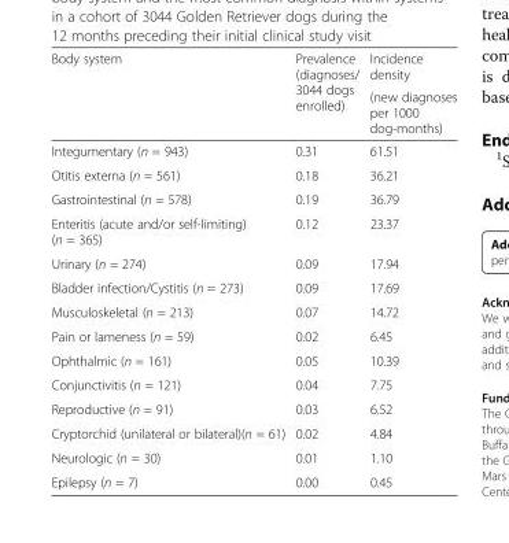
<table><thead><tr><td rowspan="2">Body system</td><td rowspan="2">Prevalence (diagnoses/ 3044 dogs enrolled)</td><td rowspan="2">Incidence density (new diagnoses per 1000 dog-months)</td></tr><tr></tr></thead><tbody><tr><td>Integumentary (n = 943)</td><td>0.31</td><td>61.51</td></tr><tr><td>Otitis externa (n = 561)</td><td>0.18</td><td>36.21</td></tr><tr><td>Gastrointestinal (n = 578)</td><td>0.19</td><td>36.79</td></tr><tr><td>Enteritis (acute and/or self-limiting) (n = 365)</td><td>0.12</td><td>23.37</td></tr><tr><td>Urinary (n = 274)</td><td>0.09</td><td>17.94</td></tr><tr><td>Bladder infection/Cystitis (n = 273)</td><td>0.09</td><td>17.69</td></tr><tr><td>Musculoskeletal (n = 213)</td><td>0.07</td><td>14.72</td></tr><tr><td>Pain or lameness (n = 59)</td><td>0.02</td><td>6.45</td></tr><tr><td>Ophthalmic (n = 161)</td><td>0.05</td><td>10.39</td></tr><tr><td>Conjunctivitis (n = 121)</td><td>0.04</td><td>7.75</td></tr><tr><td>Reproductive (n = 91)</td><td>0.03</td><td>6.52</td></tr><tr><td>Cryptorchid (unilateral or bilateral)(n = 61)</td><td>0.02</td><td>4.84</td></tr><tr><td>Neurologic (n = 30)</td><td>0.01</td><td>1.10</td></tr><tr><td>Epilepsy (n = 7)</td><td>0.00</td><td>0.45</td></tr></tbody></table>